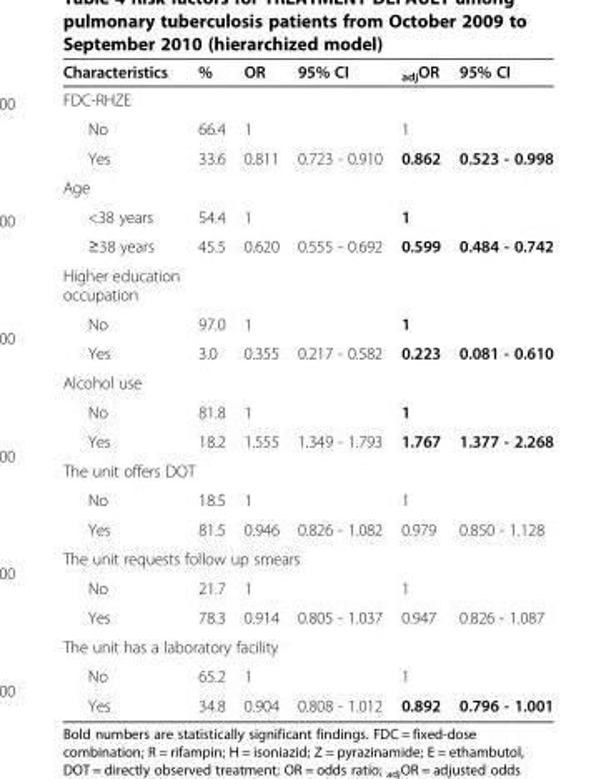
<table><thead><tr><td>Characteristics</td><td>%</td><td>OR</td><td>95% CI</td><td><sub>adj</sub>OR</td><td>95% CI</td></tr></thead><tbody><tr><td colspan="6">FDC-RHZE</td></tr><tr><td>No</td><td>66.4</td><td>1</td><td></td><td>1</td><td></td></tr><tr><td>Yes</td><td>33.6</td><td>0.811</td><td>0.723 - 0.910</td><td>0.862</td><td>0.523 - 0.998</td></tr><tr><td colspan="6">Age</td></tr><tr><td>&lt;38 years</td><td>54.4</td><td>1</td><td></td><td>1</td><td></td></tr><tr><td>≥38 years</td><td>45.5</td><td>0.620</td><td>0.555 - 0.692</td><td>0.599</td><td>0.484 - 0.742</td></tr><tr><td colspan="6">Higher education occupation</td></tr><tr><td>No</td><td>97.0</td><td>1</td><td></td><td>1</td><td></td></tr><tr><td>Yes</td><td>3.0</td><td>0.355</td><td>0.217 - 0.582</td><td>0.223</td><td>0.081 - 0.610</td></tr><tr><td colspan="6">Alcohol use</td></tr><tr><td>No</td><td>81.8</td><td>1</td><td></td><td>1</td><td></td></tr><tr><td>Yes</td><td>18.2</td><td>1.555</td><td>1.349 - 1.793</td><td>1.767</td><td>1.377 - 2.268</td></tr><tr><td colspan="6">The unit offers DOT</td></tr><tr><td>No</td><td>18.5</td><td>1</td><td></td><td>1</td><td></td></tr><tr><td>Yes</td><td>81.5</td><td>0.946</td><td>0.826 - 1.082</td><td>0.979</td><td>0.850 - 1.128</td></tr><tr><td colspan="6">The unit requests follow up smears</td></tr><tr><td>No</td><td>21.7</td><td>1</td><td></td><td>1</td><td></td></tr><tr><td>Yes</td><td>78.3</td><td>0.914</td><td>0.805 - 1.037</td><td>0.947</td><td>0.826 - 1.087</td></tr><tr><td colspan="6">The unit has a laboratory facility</td></tr><tr><td>No</td><td>65.2</td><td>1</td><td></td><td>1</td><td></td></tr><tr><td>Yes</td><td>34.8</td><td>0.904</td><td>0.808 - 1.012</td><td>0.892</td><td>0.796 - 1.001</td></tr></tbody></table>